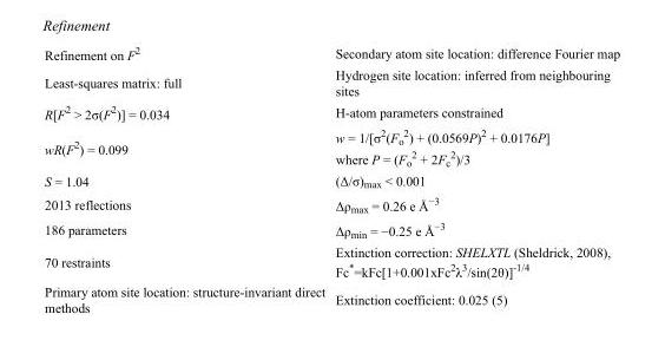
<table><tbody><tr><td>Refinement on F<sup>2</sup></td><td>Secondary atom site location: difference Fourier map</td></tr><tr><td>Least-squares matrix: full</td><td>Hydrogen site location: inferred from neighbouring sites</td></tr><tr><td>R[F<sup>2</sup> &gt; 2σ(F<sup>2</sup>)] = 0.034</td><td>H-atom parameters constrained</td></tr><tr><td>wR(F<sup>2</sup>) = 0.099</td><td>w = 1/[σ<sup>2</sup>(F<sub>o</sub> <sup>2</sup>) + (0.0569P)<sup>2</sup> + 0.0176P] where P = (F<sub>o</sub> <sup>2</sup> + 2F<sub>c</sub> <sup>2</sup>)/3</td></tr><tr><td>S = 1.04</td><td>(Δ/σ)<sub>max</sub> &lt; 0.001</td></tr><tr><td>2013 reflections</td><td>Δρ<sub>max</sub> = 0.26 e Å<sup>−3</sup></td></tr><tr><td>186 parameters</td><td>Δρ<sub>min</sub> = −0.25 e Å<sup>−3</sup></td></tr><tr><td>70 restraints</td><td>Extinction correction: SHELXTL (Sheldrick, 2008), Fc*=kFc[1+0.001xFc<sup>2</sup>λ<sup>3</sup>/sin(2θ)]<sup>-1/4</sup></td></tr><tr><td>Primary atom site location: structure-invariant direct methods</td><td>Extinction coefficient: 0.025 (5)</td></tr></tbody></table>